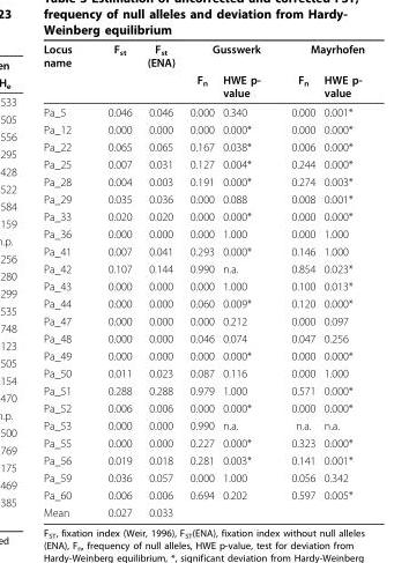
<table><thead><tr><td rowspan="2">Locus name</td><td rowspan="2">F<sub>st</sub></td><td rowspan="2">F<sub>st</sub> (ENA)</td><td colspan="2">Gusswerk</td><td colspan="2">Mayrhofen</td></tr><tr><td>F<sub>n</sub></td><td>HWE p- value</td><td>F<sub>n</sub></td><td>HWE p- value</td></tr></thead><tbody><tr><td>Pa_5</td><td>0.046</td><td>0.046</td><td>0.000</td><td>0.340</td><td>0.000</td><td>0.001*</td></tr><tr><td>Pa_12</td><td>0.000</td><td>0.000</td><td>0.000</td><td>0.000*</td><td>0.000</td><td>0.000*</td></tr><tr><td>Pa_22</td><td>0.065</td><td>0.065</td><td>0.167</td><td>0.038*</td><td>0.006</td><td>0.000*</td></tr><tr><td>Pa_25</td><td>0.007</td><td>0.031</td><td>0.127</td><td>0.004*</td><td>0.244</td><td>0.000*</td></tr><tr><td>Pa_28</td><td>0.004</td><td>0.003</td><td>0.191</td><td>0.000*</td><td>0.274</td><td>0.003*</td></tr><tr><td>Pa_29</td><td>0.035</td><td>0.036</td><td>0.000</td><td>0.088</td><td>0.008</td><td>0.001*</td></tr><tr><td>Pa_33</td><td>0.020</td><td>0.020</td><td>0.000</td><td>0.000*</td><td>0.000</td><td>0.000*</td></tr><tr><td>Pa_36</td><td>0.000</td><td>0.000</td><td>0.000</td><td>1.000</td><td>0.000</td><td>1.000</td></tr><tr><td>Pa_41</td><td>0.007</td><td>0.041</td><td>0.293</td><td>0.000*</td><td>0.146</td><td>1.000</td></tr><tr><td>Pa_42</td><td>0.107</td><td>0.144</td><td>0.990</td><td>n.a.</td><td>0.854</td><td>0.023*</td></tr><tr><td>Pa_43</td><td>0.000</td><td>0.000</td><td>0.000</td><td>1.000</td><td>0.100</td><td>0.013*</td></tr><tr><td>Pa_44</td><td>0.000</td><td>0.000</td><td>0.060</td><td>0.009*</td><td>0.120</td><td>0.000*</td></tr><tr><td>Pa_47</td><td>0.000</td><td>0.000</td><td>0.000</td><td>0.212</td><td>0.000</td><td>0.097</td></tr><tr><td>Pa_48</td><td>0.000</td><td>0.000</td><td>0.046</td><td>0.074</td><td>0.047</td><td>0.256</td></tr><tr><td>Pa_49</td><td>0.000</td><td>0.000</td><td>0.000</td><td>0.000*</td><td>0.000</td><td>0.000*</td></tr><tr><td>Pa_50</td><td>0.011</td><td>0.023</td><td>0.087</td><td>0.116</td><td>0.000</td><td>1.000</td></tr><tr><td>Pa_51</td><td>0.288</td><td>0.288</td><td>0.979</td><td>1.000</td><td>0.571</td><td>0.000*</td></tr><tr><td>Pa_52</td><td>0.006</td><td>0.006</td><td>0.000</td><td>0.000*</td><td>0.000</td><td>0.000*</td></tr><tr><td>Pa_53</td><td>0.000</td><td>0.000</td><td>0.990</td><td>n.a.</td><td>n.a.</td><td>n.a.</td></tr><tr><td>Pa_55</td><td>0.000</td><td>0.000</td><td>0.227</td><td>0.000*</td><td>0.323</td><td>0.000*</td></tr><tr><td>Pa_56</td><td>0.019</td><td>0.018</td><td>0.281</td><td>0.003*</td><td>0.141</td><td>0.001*</td></tr><tr><td>Pa_59</td><td>0.036</td><td>0.057</td><td>0.000</td><td>1.000</td><td>0.056</td><td>0.342</td></tr><tr><td>Pa_60</td><td>0.006</td><td>0.006</td><td>0.694</td><td>0.202</td><td>0.597</td><td>0.005*</td></tr><tr><td>Mean</td><td>0.027</td><td>0.033</td><td></td><td></td><td></td><td></td></tr></tbody></table>